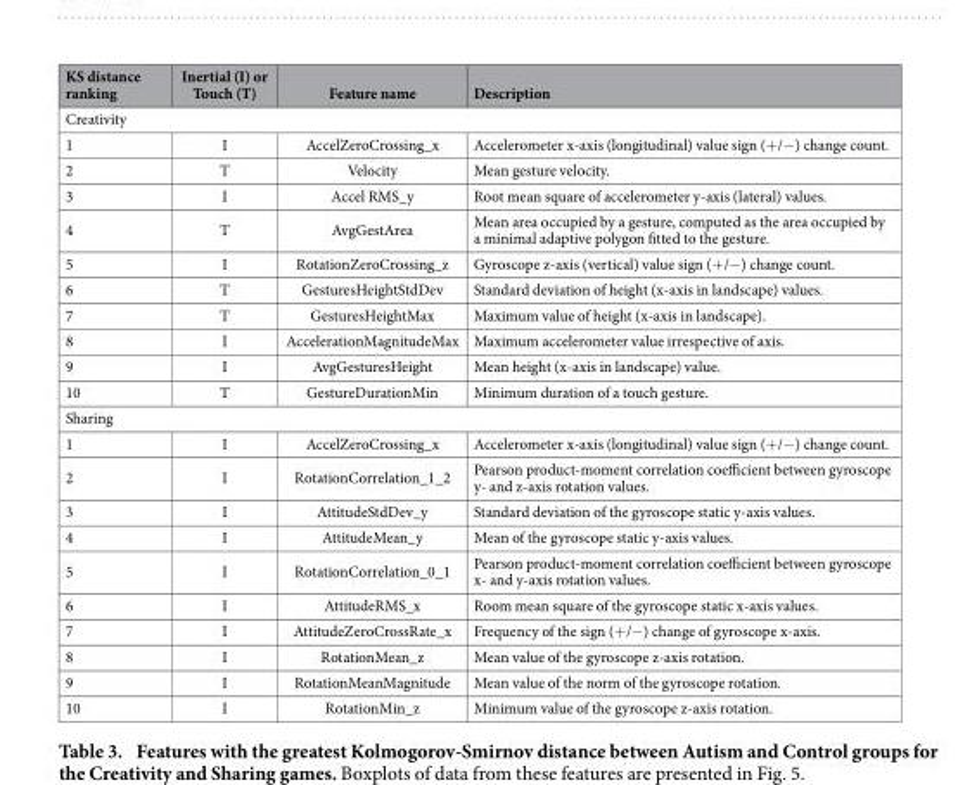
<table><thead><tr><td>KS distance ranking</td><td>Inertial (I) or Touch (T)</td><td>Feature name</td><td>Description</td></tr><tr><td colspan="4">Creativity</td></tr></thead><tbody><tr><td>1</td><td>I</td><td>AccelZeroCrossing_x</td><td>Accelerometer x-axis (longitudinal) value sign (+ /− ) change count.</td></tr><tr><td>2</td><td>T</td><td>Velocity</td><td>Mean gesture velocity.</td></tr><tr><td>3</td><td>I</td><td>Accel RMS_y</td><td>Root mean square of accelerometer y-axis (lateral) values.</td></tr><tr><td>4</td><td>T</td><td>AvgGestArea</td><td>Mean area occupied by a gesture, computed as the area occupied by a minimal adaptive polygon fitted to the gesture.</td></tr><tr><td>5</td><td>I</td><td>RotationZeroCrossing_z</td><td>Gyroscope z-axis (vertical) value sign (+ /− ) change count.</td></tr><tr><td>6</td><td>T</td><td>GesturesHeightStdDev</td><td>Standard deviation of height (x-axis in landscape) values.</td></tr><tr><td>7</td><td>T</td><td>GesturesHeightMax</td><td>Maximum value of height (x-axis in landscape).</td></tr><tr><td>8</td><td>I</td><td>AccelerationMagnitudeMax</td><td>Maximum accelerometer value irrespective of axis.</td></tr><tr><td>9</td><td>I</td><td>AvgGesturesHeight</td><td>Mean height (x-axis in landscape) value.</td></tr><tr><td>10</td><td>T</td><td>GestureDurationMin</td><td>Minimum duration of a touch gesture.</td></tr><tr><td colspan="4">Sharing</td></tr><tr><td>1</td><td>I</td><td>AccelZeroCrossing_x</td><td>Accelerometer x-axis (longitudinal) value sign (+ /− ) change count.</td></tr><tr><td>2</td><td>I</td><td>RotationCorrelation_1_2</td><td>Pearson product-moment correlation coefficient between gyroscope y- and z-axis rotation values.</td></tr><tr><td>3</td><td>I</td><td>AttitudeStdDev_y</td><td>Standard deviation of the gyroscope static y-axis values.</td></tr><tr><td>4</td><td>I</td><td>AttitudeMean_y</td><td>Mean of the gyroscope static y-axis values.</td></tr><tr><td>5</td><td>I</td><td>RotationCorrelation_0_1</td><td>Pearson product-moment correlation coefficient between gyroscope x- and y-axis rotation values.</td></tr><tr><td>6</td><td>I</td><td>AttitudeRMS_x</td><td>Room mean square of the gyroscope static x-axis values.</td></tr><tr><td>7</td><td>I</td><td>AttitudeZeroCrossRate_x</td><td>Frequency of the sign (+ /− ) change of gyroscope x-axis.</td></tr><tr><td>8</td><td>I</td><td>RotationMean_z</td><td>Mean value of the gyroscope z-axis rotation.</td></tr><tr><td>9</td><td>I</td><td>RotationMeanMagnitude</td><td>Mean value of the norm of the gyroscope rotation.</td></tr><tr><td>10</td><td>I</td><td>RotationMin_z</td><td>Minimum value of the gyroscope z-axis rotation.</td></tr></tbody></table>